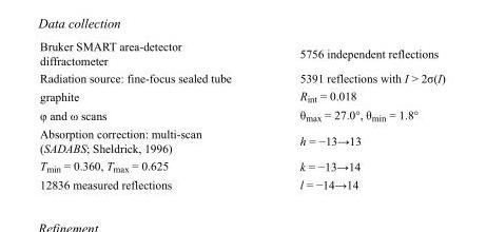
<table><tbody><tr><td>Bruker SMART area-detector diffractometer</td><td>5756 independent reflections</td></tr><tr><td>Radiation source: fine-focus sealed tube</td><td>5391 reflections with I &gt; 2σ(I)</td></tr><tr><td>graphite</td><td>R<sub>int</sub> = 0.018</td></tr><tr><td>φ and ω scans</td><td>θ<sub>max</sub> = 27.0°, θ<sub>min</sub> = 1.8°</td></tr><tr><td>Absorption correction: multi-scan (SADABS; Sheldrick, 1996)</td><td>h = −13→13</td></tr><tr><td>T<sub>min</sub> = 0.360, T<sub>max</sub> = 0.625</td><td>k = −13→14</td></tr><tr><td>12836 measured reflections</td><td>l = −14→14</td></tr></tbody></table>